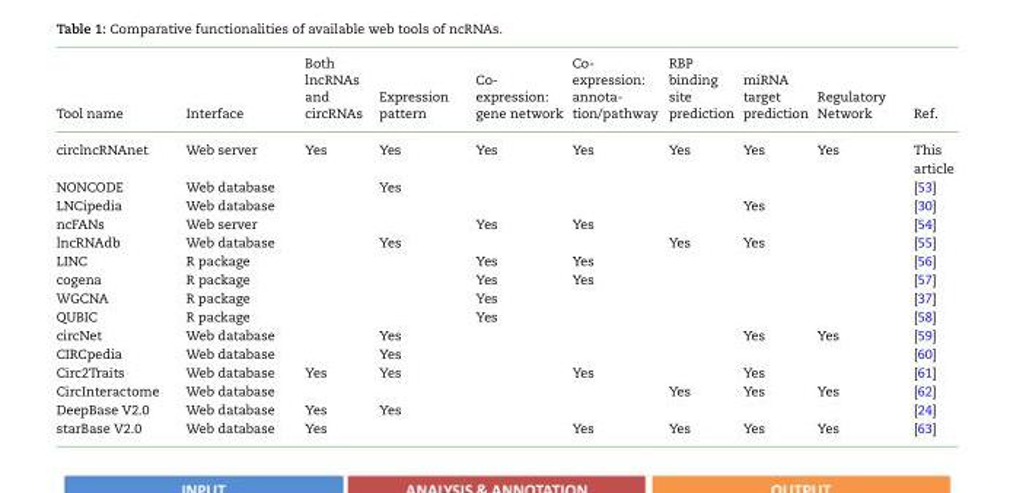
<table><thead><tr><td>Tool name</td><td>Interface</td><td>Both lncRNAs and circRNAs</td><td>Expression pattern</td><td>Co- expression: gene network</td><td>Co- expression: annota- tion/pathway</td><td>RBP binding site prediction</td><td>miRNA target prediction</td><td>Regulatory Network</td><td>Ref.</td></tr></thead><tbody><tr><td>circlncRNAnet</td><td>Web server</td><td>Yes</td><td>Yes</td><td>Yes</td><td>Yes</td><td>Yes</td><td>Yes</td><td>Yes</td><td>This article</td></tr><tr><td>NONCODE</td><td>Web database</td><td></td><td>Yes</td><td></td><td></td><td></td><td></td><td></td><td>[53]</td></tr><tr><td>LNCipedia</td><td>Web database</td><td></td><td></td><td></td><td></td><td></td><td>Yes</td><td></td><td>[30]</td></tr><tr><td>ncFANs</td><td>Web server</td><td></td><td></td><td>Yes</td><td>Yes</td><td></td><td></td><td></td><td>[54]</td></tr><tr><td>lncRNAdb</td><td>Web database</td><td></td><td>Yes</td><td></td><td></td><td>Yes</td><td>Yes</td><td></td><td>[55]</td></tr><tr><td>LINC</td><td>R package</td><td></td><td></td><td>Yes</td><td>Yes</td><td></td><td></td><td></td><td>[56]</td></tr><tr><td>cogena</td><td>R package</td><td></td><td></td><td>Yes</td><td>Yes</td><td></td><td></td><td></td><td>[57]</td></tr><tr><td>WGCNA</td><td>R package</td><td></td><td></td><td>Yes</td><td></td><td></td><td></td><td></td><td>[37]</td></tr><tr><td>QUBIC</td><td>R package</td><td></td><td></td><td>Yes</td><td></td><td></td><td></td><td></td><td>[58]</td></tr><tr><td>circNet</td><td>Web database</td><td></td><td>Yes</td><td></td><td></td><td></td><td>Yes</td><td>Yes</td><td>[59]</td></tr><tr><td>CIRCpedia</td><td>Web database</td><td></td><td>Yes</td><td></td><td></td><td></td><td></td><td></td><td>[60]</td></tr><tr><td>Circ2Traits</td><td>Web database</td><td>Yes</td><td>Yes</td><td></td><td>Yes</td><td></td><td>Yes</td><td></td><td>[61]</td></tr><tr><td>CircInteractome</td><td>Web database</td><td></td><td></td><td></td><td></td><td>Yes</td><td>Yes</td><td>Yes</td><td>[62]</td></tr><tr><td>DeepBase V2.0</td><td>Web database</td><td>Yes</td><td>Yes</td><td></td><td></td><td></td><td></td><td></td><td>[24]</td></tr><tr><td>starBase V2.0</td><td>Web database</td><td>Yes</td><td></td><td></td><td>Yes</td><td>Yes</td><td>Yes</td><td>Yes</td><td>[63]</td></tr></tbody></table>